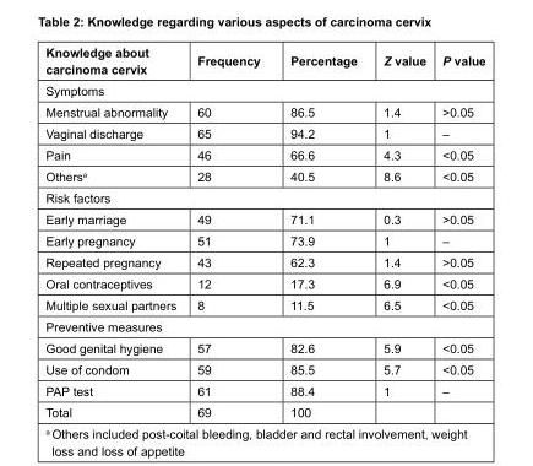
<table><thead><tr><td>Knowledge about carcinoma cervix</td><td>Frequency</td><td>Percentage</td><td>Z value</td><td>P value</td></tr></thead><tbody><tr><td colspan="5">Symptoms</td></tr><tr><td>Menstrual abnormality</td><td>60</td><td>86.5</td><td>1.4</td><td>&gt;0.05</td></tr><tr><td>Vaginal discharge</td><td>65</td><td>94.2</td><td>1</td><td>–</td></tr><tr><td>Pain</td><td>46</td><td>66.6</td><td>4.3</td><td>&lt;0.05</td></tr><tr><td>Others<sup>a</sup></td><td>28</td><td>40.5</td><td>8.6</td><td>&lt;0.05</td></tr><tr><td colspan="5">Risk factors</td></tr><tr><td>Early marriage</td><td>49</td><td>71.1</td><td>0.3</td><td>&gt;0.05</td></tr><tr><td>Early pregnancy</td><td>51</td><td>73.9</td><td>1</td><td>–</td></tr><tr><td>Repeated pregnancy</td><td>43</td><td>62.3</td><td>1.4</td><td>&gt;0.05</td></tr><tr><td>Oral contraceptives</td><td>12</td><td>17.3</td><td>6.9</td><td>&lt;0.05</td></tr><tr><td>Multiple sexual partners</td><td>8</td><td>11.5</td><td>6.5</td><td>&lt;0.05</td></tr><tr><td colspan="5">Preventive measures</td></tr><tr><td>Good genital hygiene</td><td>57</td><td>82.6</td><td>5.9</td><td>&lt;0.05</td></tr><tr><td>Use of condom</td><td>59</td><td>85.5</td><td>5.7</td><td>&lt;0.05</td></tr><tr><td>PAP test</td><td>61</td><td>88.4</td><td>1</td><td>–</td></tr><tr><td>Total</td><td>69</td><td>100</td><td></td><td></td></tr></tbody></table>